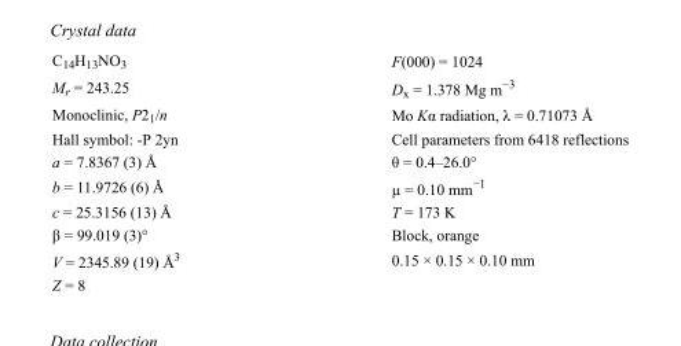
<table><tbody><tr><td>C<sub>14</sub>H<sub>13</sub>NO<sub>3</sub></td><td>F(000) = 1024</td></tr><tr><td>M<sub>r</sub> = 243.25</td><td>D<sub>x</sub> = 1.378 Mg m<sup>−3</sup></td></tr><tr><td>Monoclinic, P2<sub>1</sub>/n</td><td>Mo Kα radiation, λ = 0.71073 Å</td></tr><tr><td>Hall symbol: -P 2yn</td><td>Cell parameters from 6418 reflections</td></tr><tr><td>a = 7.8367 (3) Å</td><td>θ = 0.4–26.0°</td></tr><tr><td>b = 11.9726 (6) Å</td><td>µ = 0.10 mm<sup>−1</sup></td></tr><tr><td>c = 25.3156 (13) Å</td><td>T = 173 K</td></tr><tr><td>β = 99.019 (3)°</td><td>Block, orange</td></tr><tr><td>V = 2345.89 (19) Å<sup>3</sup></td><td>0.15 × 0.15 × 0.10 mm</td></tr><tr><td>Z = 8</td><td></td></tr></tbody></table>